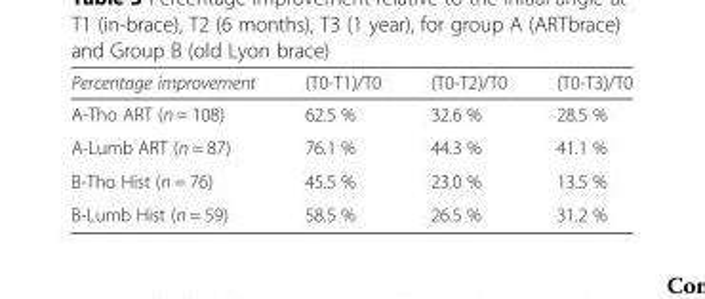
<table><thead><tr><td>Percentage improvement</td><td>(T0-T1)/T0</td><td>(T0-T2)/T0</td><td>(T0-T3)/T0</td></tr></thead><tbody><tr><td>A-Tho ART (n = 108)</td><td>62.5 %</td><td>32.6 %</td><td>28.5 %</td></tr><tr><td>A-Lumb ART (n = 87)</td><td>76.1 %</td><td>44.3 %</td><td>41.1 %</td></tr><tr><td>B-Tho Hist (n = 76)</td><td>45.5 %</td><td>23.0 %</td><td>13.5 %</td></tr><tr><td>B-Lumb Hist (n = 59)</td><td>58.5 %</td><td>26.5 %</td><td>31.2 %</td></tr></tbody></table>